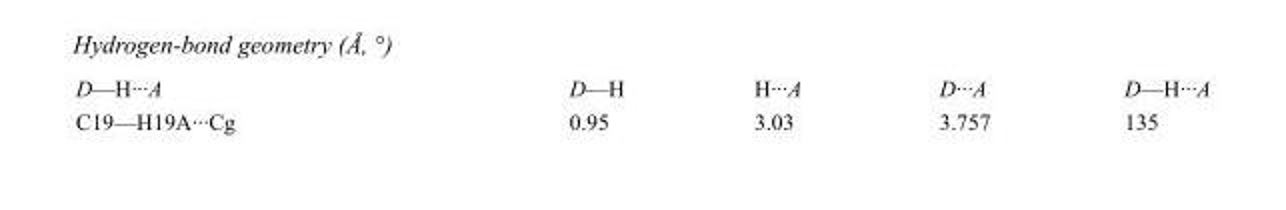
<table><tbody><tr><td>D—H···A</td><td>D—H</td><td>H···A</td><td>D···A</td><td>D—H···A</td></tr><tr><td>C19—H19A···Cg</td><td>0.95</td><td>3.03</td><td>3.757</td><td>135</td></tr></tbody></table>